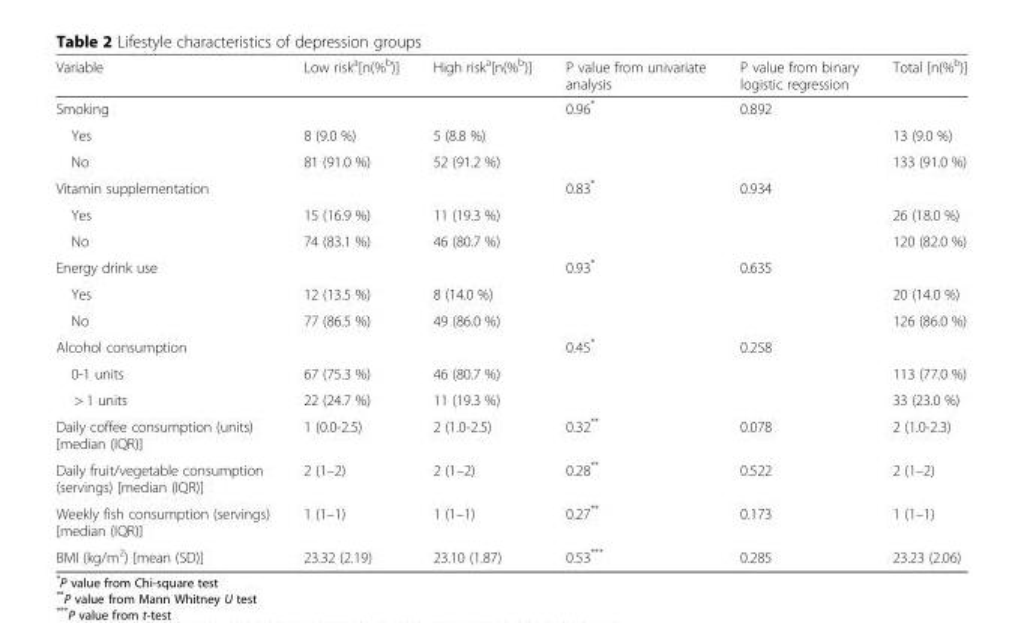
<table><thead><tr><td>Variable</td><td>Low risk<sup>a</sup>[n(%<sup>b</sup>)]</td><td>High risk<sup>a</sup>[n(%<sup>b</sup>)]</td><td>P value from univariate analysis</td><td>P value from binary logistic regression</td><td>Total [n(%<sup>b</sup>)]</td></tr></thead><tbody><tr><td>Smoking</td><td></td><td></td><td>0.96*</td><td>0.892</td><td></td></tr><tr><td>Yes</td><td>8 (9.0 %)</td><td>5 (8.8 %)</td><td></td><td></td><td>13 (9.0 %)</td></tr><tr><td>No</td><td>81 (91.0 %)</td><td>52 (91.2 %)</td><td></td><td></td><td>133 (91.0 %)</td></tr><tr><td>Vitamin supplementation</td><td></td><td></td><td>0.83*</td><td>0.934</td><td></td></tr><tr><td>Yes</td><td>15 (16.9 %)</td><td>11 (19.3 %)</td><td></td><td></td><td>26 (18.0 %)</td></tr><tr><td>No</td><td>74 (83.1 %)</td><td>46 (80.7 %)</td><td></td><td></td><td>120 (82.0 %)</td></tr><tr><td>Energy drink use</td><td></td><td></td><td>0.93*</td><td>0.635</td><td></td></tr><tr><td>Yes</td><td>12 (13.5 %)</td><td>8 (14.0 %)</td><td></td><td></td><td>20 (14.0 %)</td></tr><tr><td>No</td><td>77 (86.5 %)</td><td>49 (86.0 %)</td><td></td><td></td><td>126 (86.0 %)</td></tr><tr><td>Alcohol consumption</td><td></td><td></td><td>0.45*</td><td>0.258</td><td></td></tr><tr><td>0-1 units</td><td>67 (75.3 %)</td><td>46 (80.7 %)</td><td></td><td></td><td>113 (77.0 %)</td></tr><tr><td>&gt; 1 units</td><td>22 (24.7 %)</td><td>11 (19.3 %)</td><td></td><td></td><td>33 (23.0 %)</td></tr><tr><td>Daily coffee consumption (units) [median (IQR)]</td><td>1 (0.0-2.5)</td><td>2 (1.0-2.5)</td><td>0.32**</td><td>0.078</td><td>2 (1.0-2.3)</td></tr><tr><td>Daily fruit/vegetable consumption (servings) [median (IQR)]</td><td>2 (1–2)</td><td>2 (1–2)</td><td>0.28**</td><td>0.522</td><td>2 (1–2)</td></tr><tr><td>Weekly fish consumption (servings) [median (IQR)]</td><td>1 (1–1)</td><td>1 (1–1)</td><td>0.27**</td><td>0.173</td><td>1 (1–1)</td></tr><tr><td>BMI (kg/m<sup>2</sup>) [mean (SD)]</td><td>23.32 (2.19)</td><td>23.10 (1.87)</td><td>0.53***</td><td>0.285</td><td>23.23 (2.06)</td></tr></tbody></table>